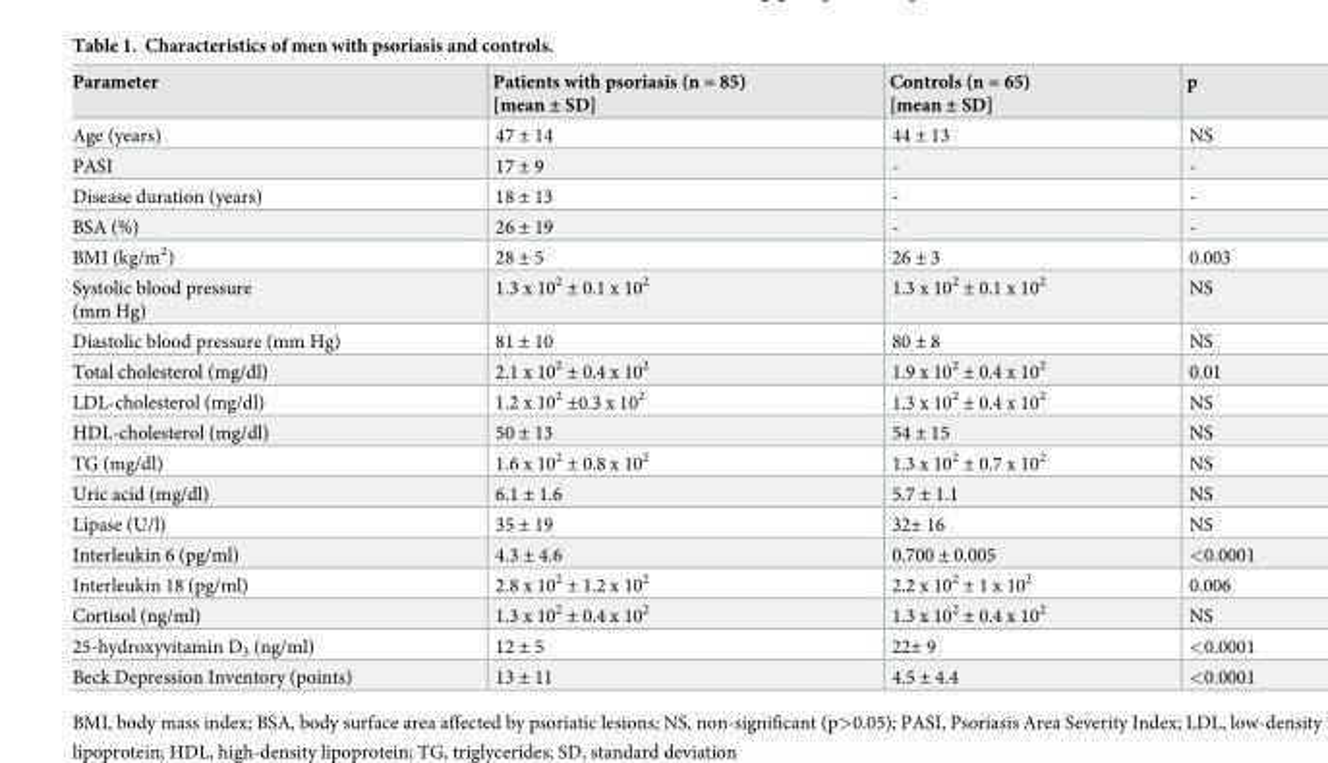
<table><thead><tr><td>Parameter</td><td>Patients with psoriasis (n = 85) [mean ± SD]</td><td>Controls (n = 65) [mean ± SD]</td><td>p</td></tr></thead><tbody><tr><td>Age (years)</td><td>47 ± 14</td><td>44 ± 13</td><td>NS</td></tr><tr><td>PASI</td><td>17 ± 9</td><td>-</td><td>-</td></tr><tr><td>Disease duration (years)</td><td>18 ± 13</td><td>-</td><td>-</td></tr><tr><td>BSA (%)</td><td>26 ± 19</td><td>-</td><td>-</td></tr><tr><td>BMI (kg/m<sup>2</sup>)</td><td>28 ± 5</td><td>26 ± 3</td><td>0.003</td></tr><tr><td>Systolic blood pressure (mm Hg)</td><td>1.3 x 10<sup>2</sup> ± 0.1 x 10<sup>2</sup></td><td>1.3 x 10<sup>2</sup> ± 0.1 x 10<sup>2</sup></td><td>NS</td></tr><tr><td>Diastolic blood pressure (mm Hg)</td><td>81 ± 10</td><td>80 ± 8</td><td>NS</td></tr><tr><td>Total cholesterol (mg/dl)</td><td>2.1 x 10<sup>2</sup> ± 0.4 x 10<sup>2</sup></td><td>1.9 x 10<sup>2</sup> ± 0.4 x 10<sup>2</sup></td><td>0.01</td></tr><tr><td>LDL-cholesterol (mg/dl)</td><td>1.2 x 10<sup>2</sup> ±0.3 x 10<sup>2</sup></td><td>1.3 x 10<sup>2</sup> ± 0.4 x 10<sup>2</sup></td><td>NS</td></tr><tr><td>HDL-cholesterol (mg/dl)</td><td>50 ± 13</td><td>54 ± 15</td><td>NS</td></tr><tr><td>TG (mg/dl)</td><td>1.6 x 10<sup>2</sup> ± 0.8 x 10<sup>2</sup></td><td>1.3 x 10<sup>2</sup> ± 0.7 x 10<sup>2</sup></td><td>NS</td></tr><tr><td>Uric acid (mg/dl)</td><td>6.1 ± 1.6</td><td>5.7 ± 1.1</td><td>NS</td></tr><tr><td>Lipase (U/l)</td><td>35 ± 19</td><td>32± 16</td><td>NS</td></tr><tr><td>Interleukin 6 (pg/ml)</td><td>4.3 ± 4.6</td><td>0.700 ± 0.005</td><td>&lt;0.0001</td></tr><tr><td>Interleukin 18 (pg/ml)</td><td>2.8 x 10<sup>2</sup> ± 1.2 x 10<sup>2</sup></td><td>2.2 x 10<sup>2</sup> ± 1 x 10<sup>2</sup></td><td>0.006</td></tr><tr><td>Cortisol (ng/ml)</td><td>1.3 x 10<sup>2</sup> ± 0.4 x 10<sup>2</sup></td><td>1.3 x 10<sup>2</sup> ± 0.4 x 10<sup>2</sup></td><td>NS</td></tr><tr><td>25-hydroxyvitamin D<sub>3</sub> (ng/ml)</td><td>12 ± 5</td><td>22± 9</td><td>&lt;0.0001</td></tr><tr><td>Beck Depression Inventory (points)</td><td>13 ± 11</td><td>4.5 ± 4.4</td><td>&lt;0.0001</td></tr></tbody></table>